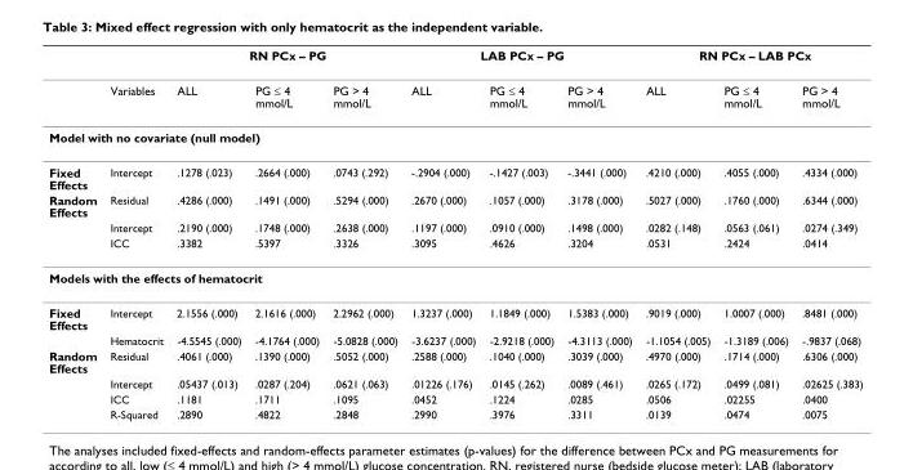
<table><thead><tr><td rowspan="2"></td><td rowspan="2">Variables</td><td colspan="3">RN PCx – PG</td><td colspan="3">LAB PCx – PG</td><td colspan="3">RN PCx – LAB PCx</td></tr><tr><td>ALL</td><td>PG ≤ 4 mmol/L</td><td>PG &gt; 4 mmol/L</td><td>ALL</td><td>PG ≤ 4 mmol/L</td><td>PG &gt; 4 mmol/L</td><td>ALL</td><td>PG ≤ 4 mmol/L</td><td>PG &gt; 4 mmol/L</td></tr></thead><tbody><tr><td colspan="11">Model with no covariate (null model)</td></tr><tr><td>Fixed Effects</td><td>Intercept</td><td>.1278 (.023)</td><td>.2664 (.000)</td><td>.0743 (.292)</td><td>-.2904 (.000)</td><td>-.1427 (.003)</td><td>-.3441 (.000)</td><td>.4210 (.000)</td><td>.4055 (.000)</td><td>.4334 (.000)</td></tr><tr><td rowspan="3">Random Effects</td><td>Residual</td><td>.4286 (.000)</td><td>.1491 (.000)</td><td>.5294 (.000)</td><td>.2670 (.000)</td><td>.1057 (.000)</td><td>.3178 (.000)</td><td>.5027 (.000)</td><td>.1760 (.000)</td><td>.6344 (.000)</td></tr><tr><td>Intercept</td><td>.2190 (.000)</td><td>.1748 (.000)</td><td>.2638 (.000)</td><td>.1197 (.000)</td><td>.0910 (.000)</td><td>.1498 (.000)</td><td>.0282 (.148)</td><td>.0563 (.061)</td><td>.0274 (.349)</td></tr><tr><td>ICC</td><td>.3382</td><td>.5397</td><td>.3326</td><td>.3095</td><td>.4626</td><td>.3204</td><td>.0531</td><td>.2424</td><td>.0414</td></tr><tr><td colspan="11">Models with the effects of hematocrit</td></tr><tr><td rowspan="2">Fixed Effects</td><td>Intercept</td><td>2.1556 (.000)</td><td>2.1616 (.000)</td><td>2.2962 (.000)</td><td>1.3237 (.000)</td><td>1.1849 (.000)</td><td>1.5383 (.000)</td><td>.9019 (.000)</td><td>1.0007 (.000)</td><td>.8481 (.000)</td></tr><tr><td>Hematocrit</td><td>-4.5545 (.000)</td><td>-4.1764 (.000)</td><td>-5.0828 (.000)</td><td>-3.6237 (.000)</td><td>-2.9218 (.000)</td><td>-4.3113 (.000)</td><td>-1.1054 (.005)</td><td>-1.3189 (.006)</td><td>-.9837 (.068)</td></tr><tr><td rowspan="4">Random Effects</td><td>Residual</td><td>.4061 (.000)</td><td>.1390 (.000)</td><td>.5052 (.000)</td><td>.2588 (.000)</td><td>.1040 (.000)</td><td>.3039 (.000)</td><td>.4970 (.000)</td><td>.1714 (.000)</td><td>.6306 (.000)</td></tr><tr><td>Intercept</td><td>.05437 (.013)</td><td>.0287 (.204)</td><td>.0621 (.063)</td><td>.01226 (.176)</td><td>.0145 (.262)</td><td>.0089 (.461)</td><td>.0265 (.172)</td><td>.0499 (.081)</td><td>.02625 (.383)</td></tr><tr><td>ICC</td><td>.1181</td><td>.1711</td><td>.1095</td><td>.0452</td><td>.1224</td><td>.0285</td><td>.0506</td><td>.02255</td><td>.0400</td></tr><tr><td>R-Squared</td><td>.2890</td><td>.4822</td><td>.2848</td><td>.2990</td><td>.3976</td><td>.3311</td><td>.0139</td><td>.0474</td><td>.0075</td></tr></tbody></table>